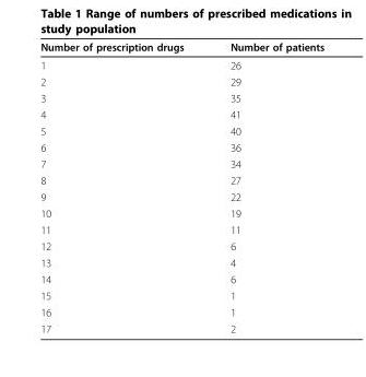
<table><thead><tr><td>Number of prescription drugs</td><td>Number of patients</td></tr></thead><tbody><tr><td>1</td><td>26</td></tr><tr><td>2</td><td>29</td></tr><tr><td>3</td><td>35</td></tr><tr><td>4</td><td>41</td></tr><tr><td>5</td><td>40</td></tr><tr><td>6</td><td>36</td></tr><tr><td>7</td><td>34</td></tr><tr><td>8</td><td>27</td></tr><tr><td>9</td><td>22</td></tr><tr><td>10</td><td>19</td></tr><tr><td>11</td><td>11</td></tr><tr><td>12</td><td>6</td></tr><tr><td>13</td><td>4</td></tr><tr><td>14</td><td>6</td></tr><tr><td>15</td><td>1</td></tr><tr><td>16</td><td>1</td></tr><tr><td>17</td><td>2</td></tr></tbody></table>